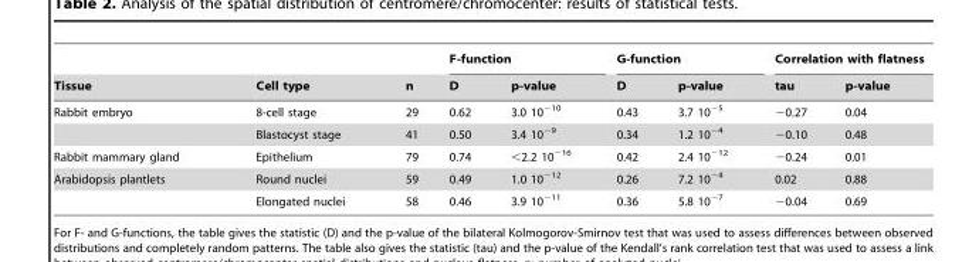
<table><thead><tr><td rowspan="2">Tissue</td><td rowspan="2">Cell type</td><td rowspan="2">n</td><td colspan="2">F-function</td><td colspan="2">G-function</td><td colspan="2">Correlation with flatness</td></tr><tr><td>D</td><td>p-value</td><td>D</td><td>p-value</td><td>tau</td><td>p-value</td></tr></thead><tbody><tr><td rowspan="2">Rabbit embryo</td><td>8-cell stage</td><td>29</td><td>0.62</td><td>3.0 10<sup>−10</sup></td><td>0.43</td><td>3.7 10<sup>−5</sup></td><td>−0.27</td><td>0.04</td></tr><tr><td>Blastocyst stage</td><td>41</td><td>0.50</td><td>3.4 10<sup>−9</sup></td><td>0.34</td><td>1.2 10<sup>−4</sup></td><td>−0.10</td><td>0.48</td></tr><tr><td>Rabbit mammary gland</td><td>Epithelium</td><td>79</td><td>0.74</td><td>&lt;2.2 10<sup>−16</sup></td><td>0.42</td><td>2.4 10<sup>−12</sup></td><td>−0.24</td><td>0.01</td></tr><tr><td rowspan="2">Arabidopsis plantlets</td><td>Round nuclei</td><td>59</td><td>0.49</td><td>1.0 10<sup>−12</sup></td><td>0.26</td><td>7.2 10<sup>−4</sup></td><td>0.02</td><td>0.88</td></tr><tr><td>Elongated nuclei</td><td>58</td><td>0.46</td><td>3.9 10<sup>−11</sup></td><td>0.36</td><td>5.8 10<sup>−7</sup></td><td>−0.04</td><td>0.69</td></tr></tbody></table>